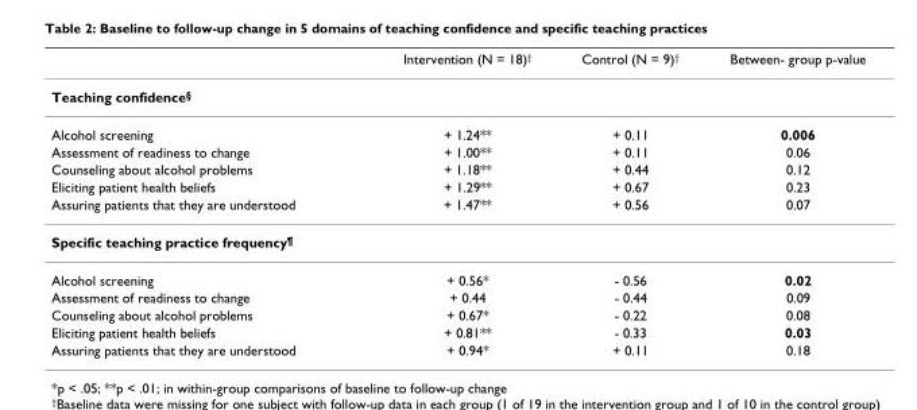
<table><thead><tr><td></td><td>Intervention (N = 18)<sup>†</sup></td><td>Control (N = 9)<sup>†</sup></td><td>Between- group p-value</td></tr></thead><tbody><tr><td colspan="4">Teaching confidence<sup>§</sup></td></tr><tr><td>Alcohol screening</td><td>+ 1.24**</td><td>+ 0.11</td><td>0.006</td></tr><tr><td>Assessment of readiness to change</td><td>+ 1.00**</td><td>+ 0.11</td><td>0.06</td></tr><tr><td>Counseling about alcohol problems</td><td>+ 1.18**</td><td>+ 0.44</td><td>0.12</td></tr><tr><td>Eliciting patient health beliefs</td><td>+ 1.29**</td><td>+ 0.67</td><td>0.23</td></tr><tr><td>Assuring patients that they are understood</td><td>+ 1.47**</td><td>+ 0.56</td><td>0.07</td></tr><tr><td colspan="4">Specific teaching practice frequency<sup>¶</sup></td></tr><tr><td>Alcohol screening</td><td>+ 0.56*</td><td>- 0.56</td><td>0.02</td></tr><tr><td>Assessment of readiness to change</td><td>+ 0.44</td><td>- 0.44</td><td>0.09</td></tr><tr><td>Counseling about alcohol problems</td><td>+ 0.67*</td><td>- 0.22</td><td>0.08</td></tr><tr><td>Eliciting patient health beliefs</td><td>+ 0.81**</td><td>- 0.33</td><td>0.03</td></tr><tr><td>Assuring patients that they are understood</td><td>+ 0.94*</td><td>+ 0.11</td><td>0.18</td></tr></tbody></table>